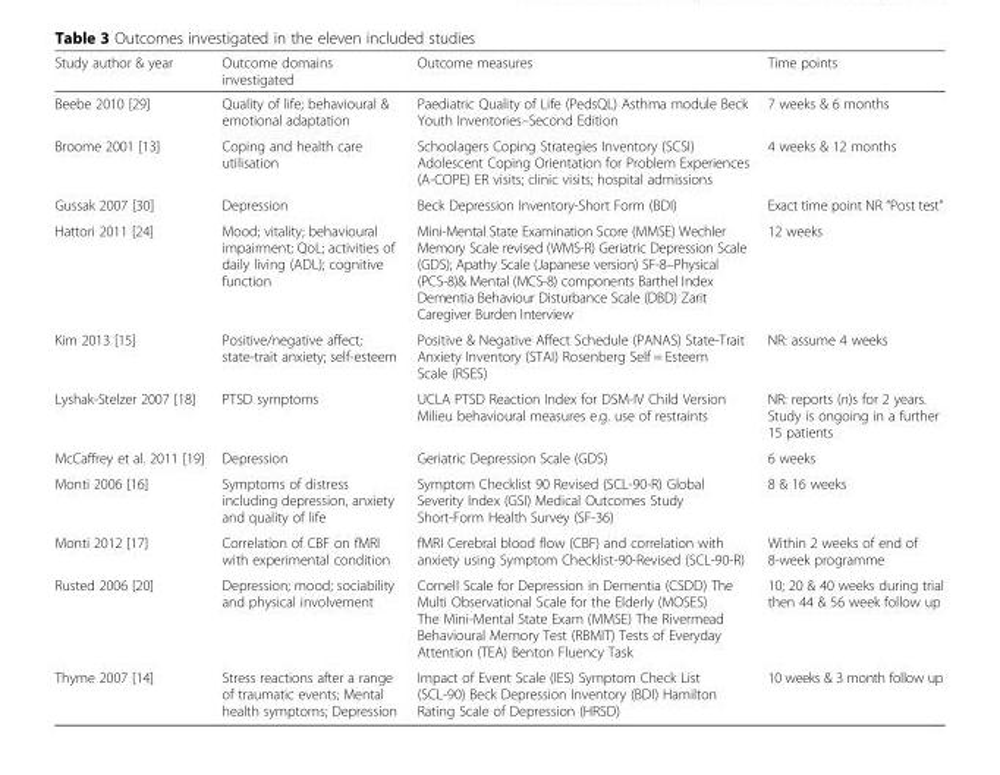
<table><thead><tr><td>Study author &amp; year</td><td>Outcome domains investigated</td><td>Outcome measures</td><td>Time points</td></tr></thead><tbody><tr><td>Beebe 2010 [29]</td><td>Quality of life; behavioural &amp; emotional adaptation</td><td>Paediatric Quality of Life (PedsQL) Asthma module Beck Youth Inventories–Second Edition</td><td>7 weeks &amp; 6 months</td></tr><tr><td>Broome 2001 [13]</td><td>Coping and health care utilisation</td><td>Schoolagers Coping Strategies Inventory (SCSI) Adolescent Coping Orientation for Problem Experiences (A-COPE) ER visits; clinic visits; hospital admissions</td><td>4 weeks &amp; 12 months</td></tr><tr><td>Gussak 2007 [30]</td><td>Depression</td><td>Beck Depression Inventory-Short Form (BDI)</td><td>Exact time point NR “Post test”</td></tr><tr><td>Hattori 2011 [24]</td><td>Mood; vitality; behavioural impairment; QoL; activities of daily living (ADL); cognitive function</td><td>Mini-Mental State Examination Score (MMSE) Wechler Memory Scale revised (WMS-R) Geriatric Depression Scale (GDS); Apathy Scale (Japanese version) SF-8–Physical (PCS-8)&amp; Mental (MCS-8) components Barthel Index Dementia Behaviour Disturbance Scale (DBD) Zarit Caregiver Burden Interview</td><td>12 weeks</td></tr><tr><td>Kim 2013 [15]</td><td>Positive/negative affect; state-trait anxiety; self-esteem</td><td>Positive &amp; Negative Affect Schedule (PANAS) State-Trait Anxiety Inventory (STAI) Rosenberg Self = Esteem Scale (RSES)</td><td>NR: assume 4 weeks</td></tr><tr><td>Lyshak-Stelzer 2007 [18]</td><td>PTSD symptoms</td><td>UCLA PTSD Reaction Index for DSM-IV Child Version Milieu behavioural measures e.g. use of restraints</td><td>NR: reports (n)s for 2 years. Study is ongoing in a further 15 patients</td></tr><tr><td>McCaffrey et al. 2011 [19]</td><td>Depression</td><td>Geriatric Depression Scale (GDS)</td><td>6 weeks</td></tr><tr><td>Monti 2006 [16]</td><td>Symptoms of distress including depression, anxiety and quality of life</td><td>Symptom Checklist 90 Revised (SCL-90-R) Global Severity Index (GSI) Medical Outcomes Study Short-Form Health Survey (SF-36)</td><td>8 &amp; 16 weeks</td></tr><tr><td>Monti 2012 [17]</td><td>Correlation of CBF on fMRI with experimental condition</td><td>fMRI Cerebral blood flow (CBF) and correlation with anxiety using Symptom Checklist-90-Revised (SCL-90-R)</td><td>Within 2 weeks of end of 8-week programme</td></tr><tr><td>Rusted 2006 [20]</td><td>Depression; mood; sociability and physical involvement</td><td>Cornell Scale for Depression in Dementia (CSDD) The Multi Observational Scale for the Elderly (MOSES) The Mini-Mental State Exam (MMSE) The Rivermead Behavioural Memory Test (RBMIT) Tests of Everyday Attention (TEA) Benton Fluency Task</td><td>10; 20 &amp; 40 weeks during trial then 44 &amp; 56 week follow up</td></tr><tr><td>Thyme 2007 [14]</td><td>Stress reactions after a range of traumatic events; Mental health symptoms; Depression</td><td>Impact of Event Scale (IES) Symptom Check List (SCL-90) Beck Depression Inventory (BDI) Hamilton Rating Scale of Depression (HRSD)</td><td>10 weeks &amp; 3 month follow up</td></tr></tbody></table>